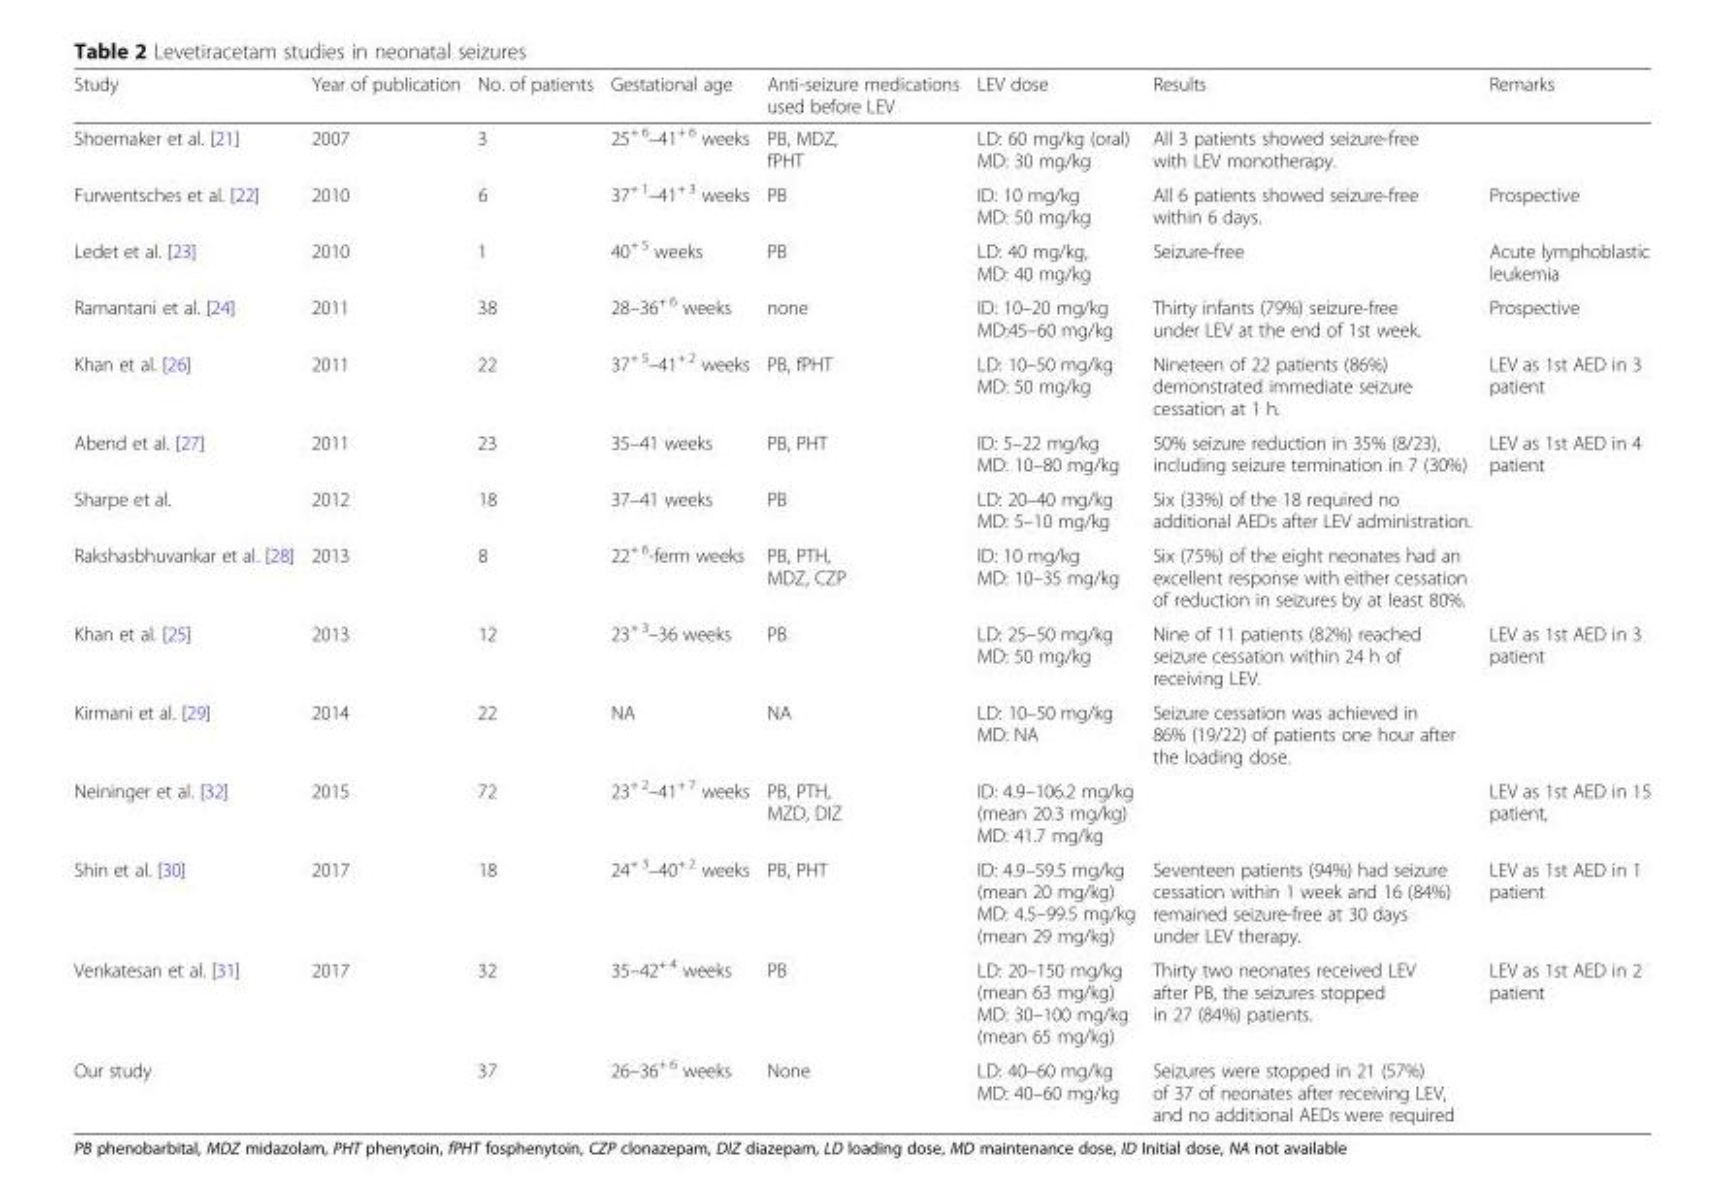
<table><thead><tr><td>Study</td><td>Year of publication</td><td>No. of patients</td><td>Gestational age</td><td>Anti-seizure medications used before LEV</td><td>LEV dose</td><td>Results</td><td>Remarks</td></tr></thead><tbody><tr><td>Shoemaker et al. [21]</td><td>2007</td><td>3</td><td>25<sup>+ 6</sup>–41<sup>+ 6</sup> weeks</td><td>PB, MDZ, fPHT</td><td>LD: 60 mg/kg (oral) MD: 30 mg/kg</td><td>All 3 patients showed seizure-free with LEV monotherapy.</td><td></td></tr><tr><td>Furwentsches et al. [22]</td><td>2010</td><td>6</td><td>37<sup>+ 1</sup>–41<sup>+ 3</sup> weeks</td><td>PB</td><td>ID: 10 mg/kg MD: 50 mg/kg</td><td>All 6 patients showed seizure-free within 6 days.</td><td>Prospective</td></tr><tr><td>Ledet et al. [23]</td><td>2010</td><td>1</td><td>40<sup>+ 5</sup> weeks</td><td>PB</td><td>LD: 40 mg/kg, MD: 40 mg/kg</td><td>Seizure-free</td><td>Acute lymphoblastic leukemia</td></tr><tr><td>Ramantani et al. [24]</td><td>2011</td><td>38</td><td>28–36<sup>+ 6</sup> weeks</td><td>none</td><td>ID: 10–20 mg/kg MD:45–60 mg/kg</td><td>Thirty infants (79%) seizure-free under LEV at the end of 1st week.</td><td>Prospective</td></tr><tr><td>Khan et al. [26]</td><td>2011</td><td>22</td><td>37<sup>+ 5</sup>–41<sup>+ 2</sup> weeks</td><td>PB, fPHT</td><td>LD: 10–50 mg/kg MD: 50 mg/kg</td><td>Nineteen of 22 patients (86%) demonstrated immediate seizure cessation at 1 h.</td><td>LEV as 1st AED in 3 patient</td></tr><tr><td>Abend et al. [27]</td><td>2011</td><td>23</td><td>35–41 weeks</td><td>PB, PHT</td><td>ID: 5–22 mg/kg MD: 10–80 mg/kg</td><td>50% seizure reduction in 35% (8/23), including seizure termination in 7 (30%)</td><td>LEV as 1st AED in 4 patient</td></tr><tr><td>Sharpe et al.</td><td>2012</td><td>18</td><td>37–41 weeks</td><td>PB</td><td>LD: 20–40 mg/kg MD: 5–10 mg/kg</td><td>Six (33%) of the 18 required no additional AEDs after LEV administration.</td><td></td></tr><tr><td>Rakshasbhuvankar et al. [28]</td><td>2013</td><td>8</td><td>22<sup>+ 6</sup>-ferm weeks</td><td>PB, PTH, MDZ, CZP</td><td>ID: 10 mg/kg MD: 10–35 mg/kg</td><td>Six (75%) of the eight neonates had an excellent response with either cessation of reduction in seizures by at least 80%.</td><td></td></tr><tr><td>Khan et al. [25]</td><td>2013</td><td>12</td><td>23<sup>+ 3</sup>–36 weeks</td><td>PB</td><td>LD: 25–50 mg/kg MD: 50 mg/kg</td><td>Nine of 11 patients (82%) reached seizure cessation within 24 h of receiving LEV.</td><td>LEV as 1st AED in 3 patient</td></tr><tr><td>Kirmani et al. [29]</td><td>2014</td><td>22</td><td>NA</td><td>NA</td><td>LD: 10–50 mg/kg MD: NA</td><td>Seizure cessation was achieved in 86% (19/22) of patients one hour after the loading dose.</td><td></td></tr><tr><td>Neininger et al. [32]</td><td>2015</td><td>72</td><td>23<sup>+ 2</sup>–41<sup>+ 7</sup> weeks</td><td>PB, PTH, MZD, DIZ</td><td>ID: 4.9–106.2 mg/kg (mean 20.3 mg/kg) MD: 41.7 mg/kg</td><td></td><td>LEV as 1st AED in 15 patient,</td></tr><tr><td>Shin et al. [30]</td><td>2017</td><td>18</td><td>24<sup>+ 3</sup>–40<sup>+ 2</sup> weeks</td><td>PB, PHT</td><td>ID: 4.9–59.5 mg/kg (mean 20 mg/kg) MD: 4.5–99.5 mg/kg (mean 29 mg/kg)</td><td>Seventeen patients (94%) had seizure cessation within 1 week and 16 (84%) remained seizure-free at 30 days under LEV therapy.</td><td>LEV as 1st AED in 1 patient</td></tr><tr><td>Venkatesan et al. [31]</td><td>2017</td><td>32</td><td>35–42<sup>+ 4</sup> weeks</td><td>PB</td><td>LD: 20–150 mg/kg (mean 63 mg/kg) MD: 30–100 mg/kg (mean 65 mg/kg)</td><td>Thirty two neonates received LEV after PB, the seizures stopped in 27 (84%) patients.</td><td>LEV as 1st AED in 2 patient</td></tr><tr><td>Our study</td><td></td><td>37</td><td>26–36<sup>+ 6</sup> weeks</td><td>None</td><td>LD: 40–60 mg/kg MD: 40–60 mg/kg</td><td>Seizures were stopped in 21 (57%) of 37 of neonates after receiving LEV, and no additional AEDs were required</td><td></td></tr></tbody></table>